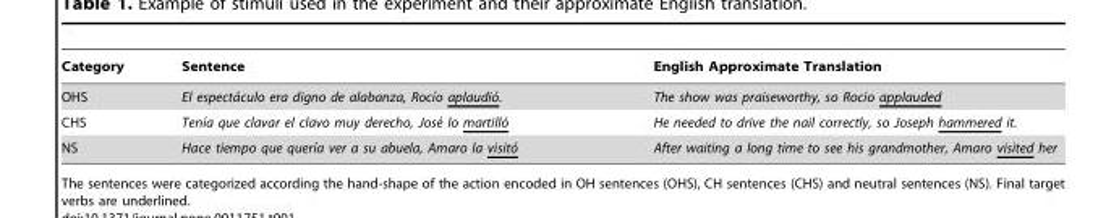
<table><thead><tr><td>Category</td><td>Sentence</td><td>English Approximate Translation</td></tr></thead><tbody><tr><td>OHS</td><td>El especta´culo era digno de alabanza, Rocı´o aplaudio´.</td><td>The show was praiseworthy, so Rocio applauded</td></tr><tr><td>CHS</td><td>Tenı´a que clavar el clavo muy derecho, Jose´ lo martillo´</td><td>He needed to drive the nail correctly, so Joseph hammered it.</td></tr><tr><td>NS</td><td>Hace tiempo que querı´a ver a su abuela, Amaro la visito´</td><td>After waiting a long time to see his grandmother, Amaro visited her</td></tr></tbody></table>